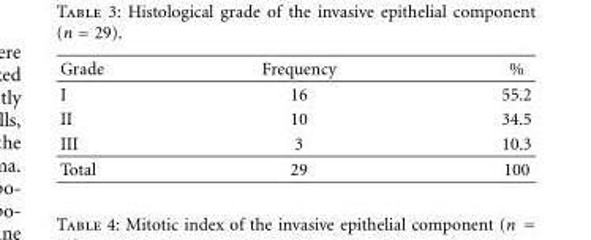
<table><thead><tr><td>Grade</td><td>Frequency</td><td>%</td></tr></thead><tbody><tr><td>I</td><td>16</td><td>55.2</td></tr><tr><td>II</td><td>10</td><td>34.5</td></tr><tr><td>III</td><td>3</td><td>10.3</td></tr><tr><td>Total</td><td>29</td><td>100</td></tr></tbody></table>